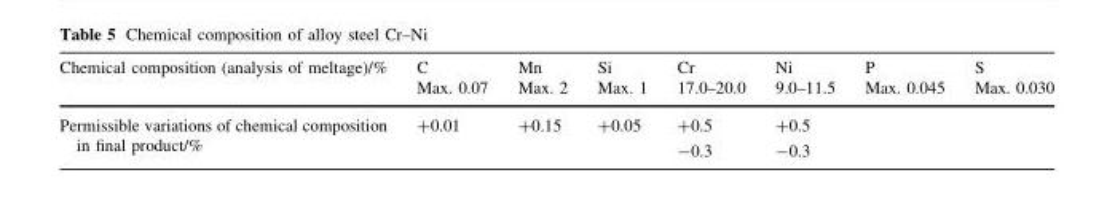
<table><thead><tr><td rowspan="2">Chemical composition (analysis of meltage)/%</td><td rowspan="2">C Max. 0.07</td><td rowspan="2">Mn Max. 2</td><td rowspan="2">Si Max. 1</td><td rowspan="2">Cr 17.0–20.0</td><td rowspan="2">Ni 9.0–11.5</td><td rowspan="2">P Max. 0.045</td><td rowspan="2">S Max. 0.030</td></tr><tr></tr></thead><tbody><tr><td rowspan="2">Permissible variations of chemical composition in final product/%</td><td rowspan="2">+0.01</td><td rowspan="2">+0.15</td><td rowspan="2">+0.05</td><td>+0.5</td><td>+0.5</td><td rowspan="2"></td><td rowspan="2"></td></tr><tr><td>-0.3</td><td>-0.3</td></tr></tbody></table>